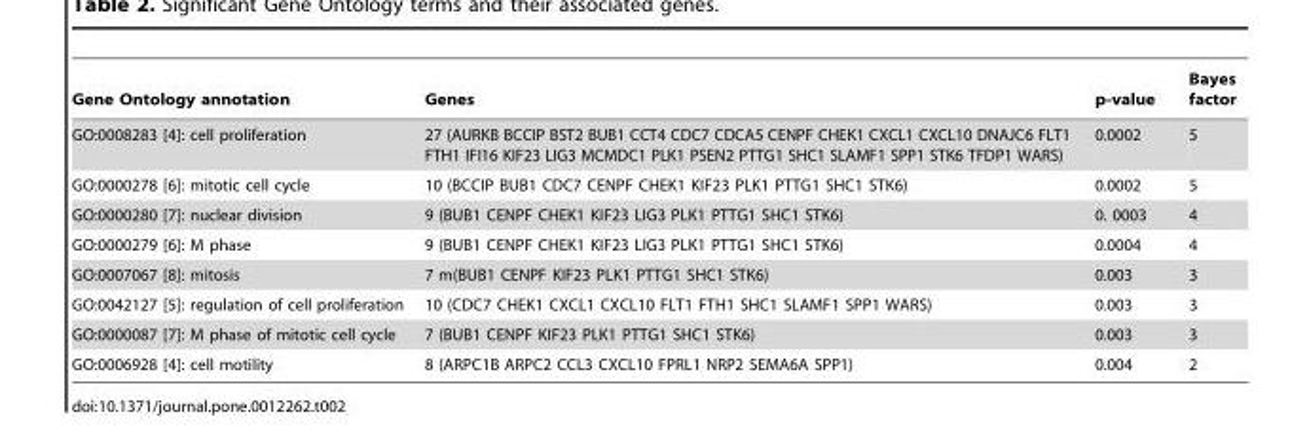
<table><thead><tr><td>Gene Ontology annotation</td><td>Genes</td><td>p-value</td><td>Bayes factor</td></tr></thead><tbody><tr><td>GO:0008283 [4]: cell proliferation</td><td>27 (AURKB BCCIP BST2 BUB1 CCT4 CDC7 CDCA5 CENPF CHEK1 CXCL1 CXCL10 DNAJC6 FLT1 FTH1 IFI16 KIF23 LIG3 MCMDC1 PLK1 PSEN2 PTTG1 SHC1 SLAMF1 SPP1 STK6 TFDP1 WARS)</td><td>0.0002</td><td>5</td></tr><tr><td>GO:0000278 [6]: mitotic cell cycle</td><td>10 (BCCIP BUB1 CDC7 CENPF CHEK1 KIF23 PLK1 PTTG1 SHC1 STK6)</td><td>0.0002</td><td>5</td></tr><tr><td>GO:0000280 [7]: nuclear division</td><td>9 (BUB1 CENPF CHEK1 KIF23 LIG3 PLK1 PTTG1 SHC1 STK6)</td><td>0. 0003</td><td>4</td></tr><tr><td>GO:0000279 [6]: M phase</td><td>9 (BUB1 CENPF CHEK1 KIF23 LIG3 PLK1 PTTG1 SHC1 STK6)</td><td>0.0004</td><td>4</td></tr><tr><td>GO:0007067 [8]: mitosis</td><td>7 m(BUB1 CENPF KIF23 PLK1 PTTG1 SHC1 STK6)</td><td>0.003</td><td>3</td></tr><tr><td>GO:0042127 [5]: regulation of cell proliferation</td><td>10 (CDC7 CHEK1 CXCL1 CXCL10 FLT1 FTH1 SHC1 SLAMF1 SPP1 WARS)</td><td>0.003</td><td>3</td></tr><tr><td>GO:0000087 [7]: M phase of mitotic cell cycle</td><td>7 (BUB1 CENPF KIF23 PLK1 PTTG1 SHC1 STK6)</td><td>0.003</td><td>3</td></tr><tr><td>GO:0006928 [4]: cell motility</td><td>8 (ARPC1B ARPC2 CCL3 CXCL10 FPRL1 NRP2 SEMA6A SPP1)</td><td>0.004</td><td>2</td></tr></tbody></table>